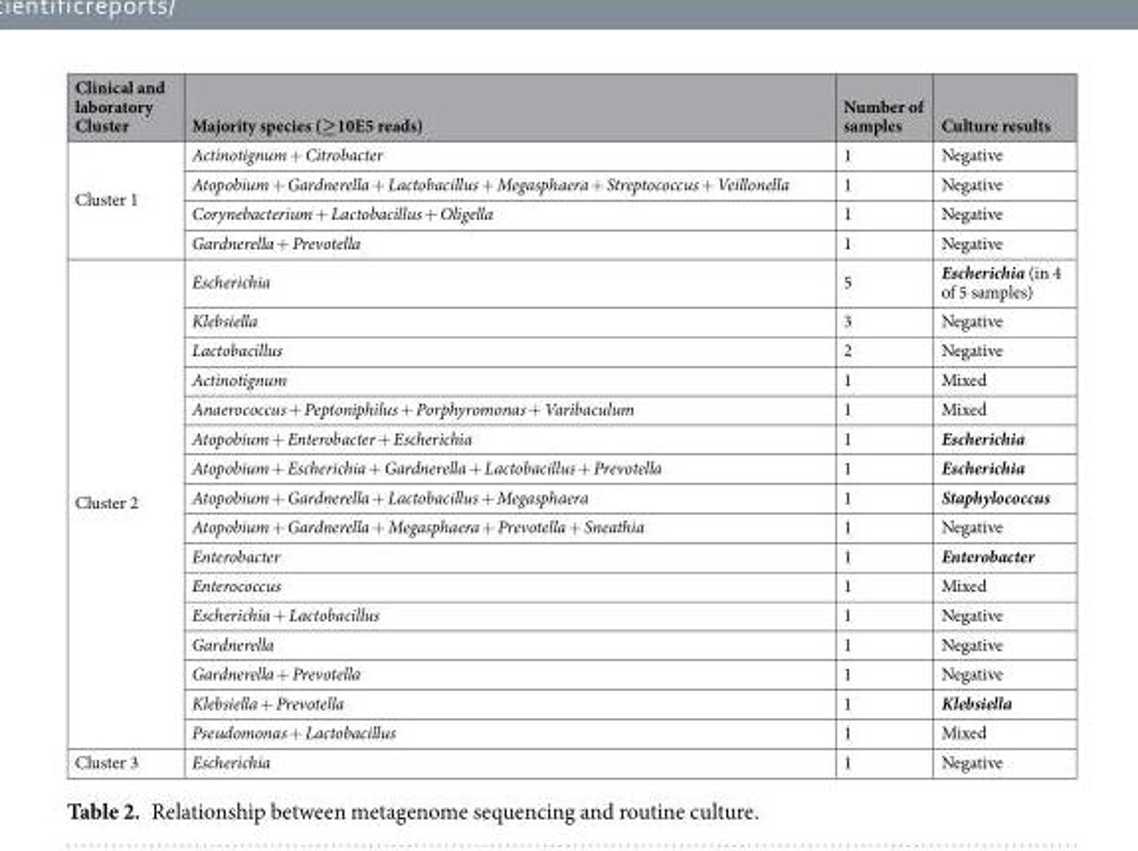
<table><thead><tr><td>Clinical and laboratory Cluster</td><td>Majority species (≥10E5 reads)</td><td>Number of samples</td><td>Culture results</td></tr></thead><tbody><tr><td rowspan="4">Cluster 1</td><td>Actinotignum + Citrobacter</td><td>1</td><td>Negative</td></tr><tr><td>Atopobium + Gardnerella + Lactobacillus + Megasphaera + Streptococcus + Veillonella</td><td>1</td><td>Negative</td></tr><tr><td>Corynebacterium + Lactobacillus + Oligella</td><td>1</td><td>Negative</td></tr><tr><td>Gardnerella + Prevotella</td><td>1</td><td>Negative</td></tr><tr><td rowspan="16">Cluster 2</td><td>Escherichia</td><td>5</td><td>Escherichia (in 4 of 5 samples)</td></tr><tr><td>Klebsiella</td><td>3</td><td>Negative</td></tr><tr><td>Lactobacillus</td><td>2</td><td>Negative</td></tr><tr><td>Actinotignum</td><td>1</td><td>Mixed</td></tr><tr><td>Anaerococcus + Peptoniphilus + Porphyromonas + Varibaculum</td><td>1</td><td>Mixed</td></tr><tr><td>Atopobium + Enterobacter + Escherichia</td><td>1</td><td>Escherichia</td></tr><tr><td>Atopobium + Escherichia + Gardnerella + Lactobacillus + Prevotella</td><td>1</td><td>Escherichia</td></tr><tr><td>Atopobium + Gardnerella + Lactobacillus + Megasphaera</td><td>1</td><td>Staphylococcus</td></tr><tr><td>Atopobium + Gardnerella + Megasphaera + Prevotella + Sneathia</td><td>1</td><td>Negative</td></tr><tr><td>Enterobacter</td><td>1</td><td>Enterobacter</td></tr><tr><td>Enterococcus</td><td>1</td><td>Mixed</td></tr><tr><td>Escherichia + Lactobacillus</td><td>1</td><td>Negative</td></tr><tr><td>Gardnerella</td><td>1</td><td>Negative</td></tr><tr><td>Gardnerella + Prevotella</td><td>1</td><td>Negative</td></tr><tr><td>Klebsiella + Prevotella</td><td>1</td><td>Klebsiella</td></tr><tr><td>Pseudomonas + Lactobacillus</td><td>1</td><td>Mixed</td></tr><tr><td>Cluster 3</td><td>Escherichia</td><td>1</td><td>Negative</td></tr></tbody></table>